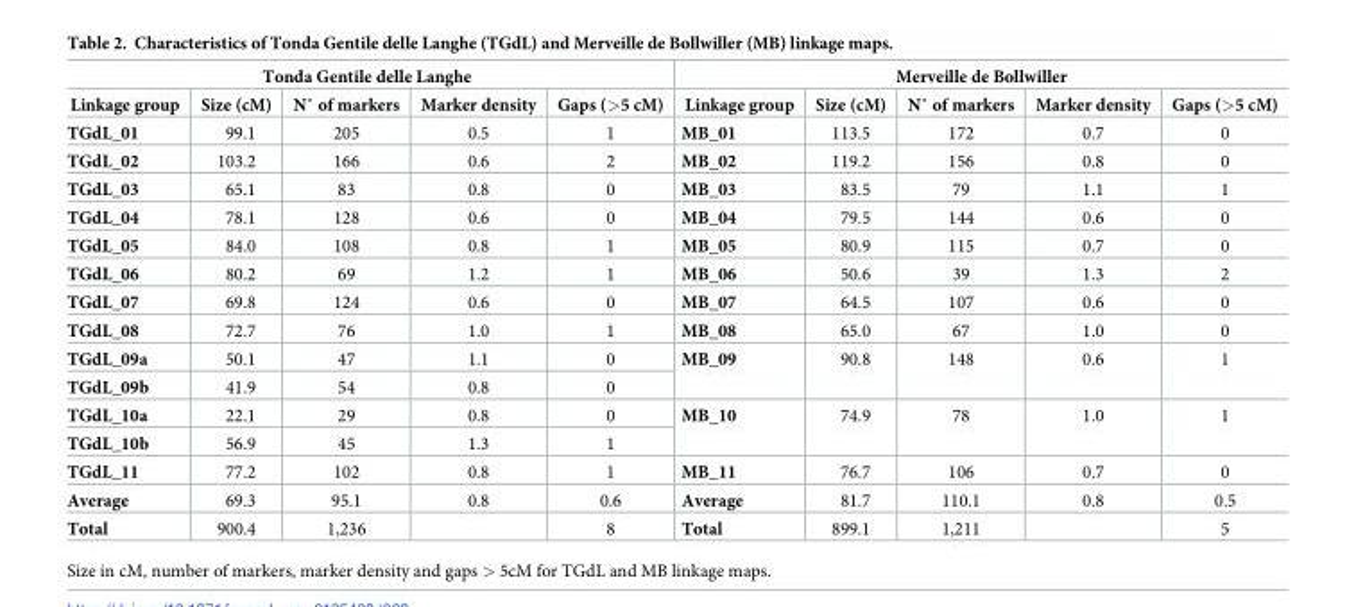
<table><thead><tr><td colspan="5">Tonda Gentile delle Langhe</td><td colspan="5">Merveille de Bollwiller</td></tr><tr><td>Linkage group</td><td>Size (cM)</td><td>N˚ of markers</td><td>Marker density</td><td>Gaps (&gt;5 cM)</td><td>Linkage group</td><td>Size (cM)</td><td>N˚ of markers</td><td>Marker density</td><td>Gaps (&gt;5 cM)</td></tr></thead><tbody><tr><td>TGdL_01</td><td>99.1</td><td>205</td><td>0.5</td><td>1</td><td>MB_01</td><td>113.5</td><td>172</td><td>0.7</td><td>0</td></tr><tr><td>TGdL_02</td><td>103.2</td><td>166</td><td>0.6</td><td>2</td><td>MB_02</td><td>119.2</td><td>156</td><td>0.8</td><td>0</td></tr><tr><td>TGdL_03</td><td>65.1</td><td>83</td><td>0.8</td><td>0</td><td>MB_03</td><td>83.5</td><td>79</td><td>1.1</td><td>1</td></tr><tr><td>TGdL_04</td><td>78.1</td><td>128</td><td>0.6</td><td>0</td><td>MB_04</td><td>79.5</td><td>144</td><td>0.6</td><td>0</td></tr><tr><td>TGdL_05</td><td>84.0</td><td>108</td><td>0.8</td><td>1</td><td>MB_05</td><td>80.9</td><td>115</td><td>0.7</td><td>0</td></tr><tr><td>TGdL_06</td><td>80.2</td><td>69</td><td>1.2</td><td>1</td><td>MB_06</td><td>50.6</td><td>39</td><td>1.3</td><td>2</td></tr><tr><td>TGdL_07</td><td>69.8</td><td>124</td><td>0.6</td><td>0</td><td>MB_07</td><td>64.5</td><td>107</td><td>0.6</td><td>0</td></tr><tr><td>TGdL_08</td><td>72.7</td><td>76</td><td>1.0</td><td>1</td><td>MB_08</td><td>65.0</td><td>67</td><td>1.0</td><td>0</td></tr><tr><td>TGdL_09a</td><td>50.1</td><td>47</td><td>1.1</td><td>0</td><td rowspan="2">MB_09</td><td rowspan="2">90.8</td><td rowspan="2">148</td><td rowspan="2">0.6</td><td rowspan="2">1</td></tr><tr><td>TGdL_09b</td><td>41.9</td><td>54</td><td>0.8</td><td>0</td></tr><tr><td>TGdL_10a</td><td>22.1</td><td>29</td><td>0.8</td><td>0</td><td rowspan="2">MB_10</td><td rowspan="2">74.9</td><td rowspan="2">78</td><td rowspan="2">1.0</td><td rowspan="2">1</td></tr><tr><td>TGdL_10b</td><td>56.9</td><td>45</td><td>1.3</td><td>1</td></tr><tr><td>TGdL_11</td><td>77.2</td><td>102</td><td>0.8</td><td>1</td><td>MB_11</td><td>76.7</td><td>106</td><td>0.7</td><td>0</td></tr><tr><td>Average</td><td>69.3</td><td>95.1</td><td>0.8</td><td>0.6</td><td>Average</td><td>81.7</td><td>110.1</td><td>0.8</td><td>0.5</td></tr><tr><td>Total</td><td>900.4</td><td>1,236</td><td></td><td>8</td><td>Total</td><td>899.1</td><td>1,211</td><td></td><td>5</td></tr></tbody></table>